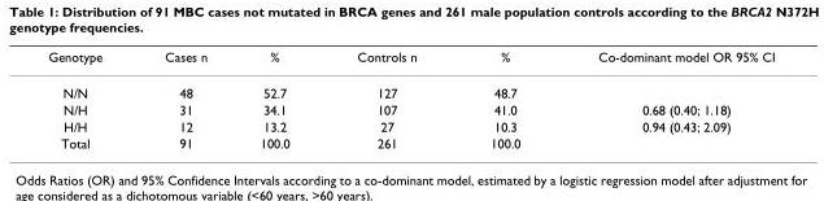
<table><thead><tr><td>Genotype</td><td>Cases n</td><td>%</td><td>Controls n</td><td>%</td><td>Co-dominant model OR 95% CI</td></tr></thead><tbody><tr><td>N/N</td><td>48</td><td>52.7</td><td>127</td><td>48.7</td><td></td></tr><tr><td>N/H</td><td>31</td><td>34.1</td><td>107</td><td>41.0</td><td>0.68 (0.40; 1.18)</td></tr><tr><td>H/H</td><td>12</td><td>13.2</td><td>27</td><td>10.3</td><td>0.94 (0.43; 2.09)</td></tr><tr><td>Total</td><td>91</td><td>100.0</td><td>261</td><td>100.0</td><td></td></tr></tbody></table>